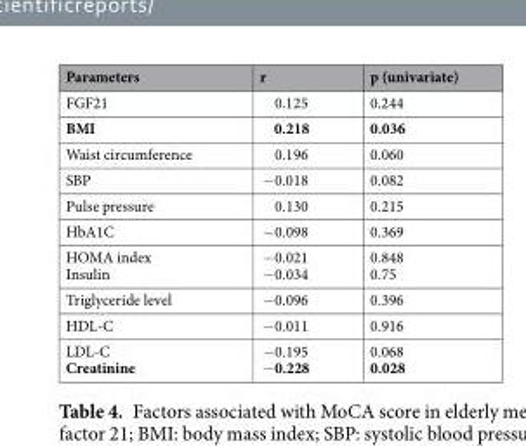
<table><thead><tr><td>Parameters</td><td>r</td><td>p (univariate)</td></tr></thead><tbody><tr><td>FGF21</td><td>0.125</td><td>0.244</td></tr><tr><td>BMI</td><td>0.218</td><td>0.036</td></tr><tr><td>Waist circumference</td><td>0.196</td><td>0.060</td></tr><tr><td>SBP</td><td>−0.018</td><td>0.082</td></tr><tr><td>Pulse pressure</td><td>0.130</td><td>0.215</td></tr><tr><td>HbA1C</td><td>−0.098</td><td>0.369</td></tr><tr><td>HOMA index Insulin</td><td>−0.021 −0.034</td><td>0.848 0.75</td></tr><tr><td>Triglyceride level</td><td>−0.096</td><td>0.396</td></tr><tr><td>HDL-C</td><td>−0.011</td><td>0.916</td></tr><tr><td>LDL-C Creatinine</td><td>−0.195 −0.228</td><td>0.068 0.028</td></tr></tbody></table>